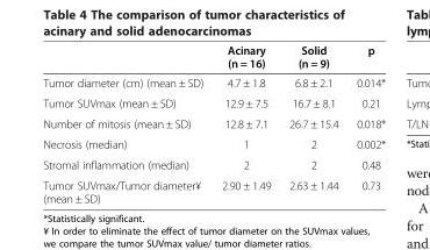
<table><thead><tr><td></td><td>Acinary (n = 16)</td><td>Solid (n = 9)</td><td>p</td></tr></thead><tbody><tr><td>Tumor diameter (cm) (mean ± SD)</td><td>4.7 ± 1.8</td><td>6.8 ± 2.1</td><td>0.014*</td></tr><tr><td>Tumor SUVmax (mean ± SD)</td><td>12.9 ± 7.5</td><td>16.7 ± 8.1</td><td>0.21</td></tr><tr><td>Number of mitosis (mean ± SD)</td><td>12.8 ± 7.1</td><td>26.7 ± 15.4</td><td>0.018*</td></tr><tr><td>Necrosis (median)</td><td>1</td><td>2</td><td>0.002*</td></tr><tr><td>Stromal inflammation (median)</td><td>2</td><td>2</td><td>0.48</td></tr><tr><td>Tumor SUVmax/Tumor diameter¥ (mean ± SD)</td><td>2.90 ± 1.49</td><td>2.63 ± 1.44</td><td>0.73</td></tr></tbody></table>